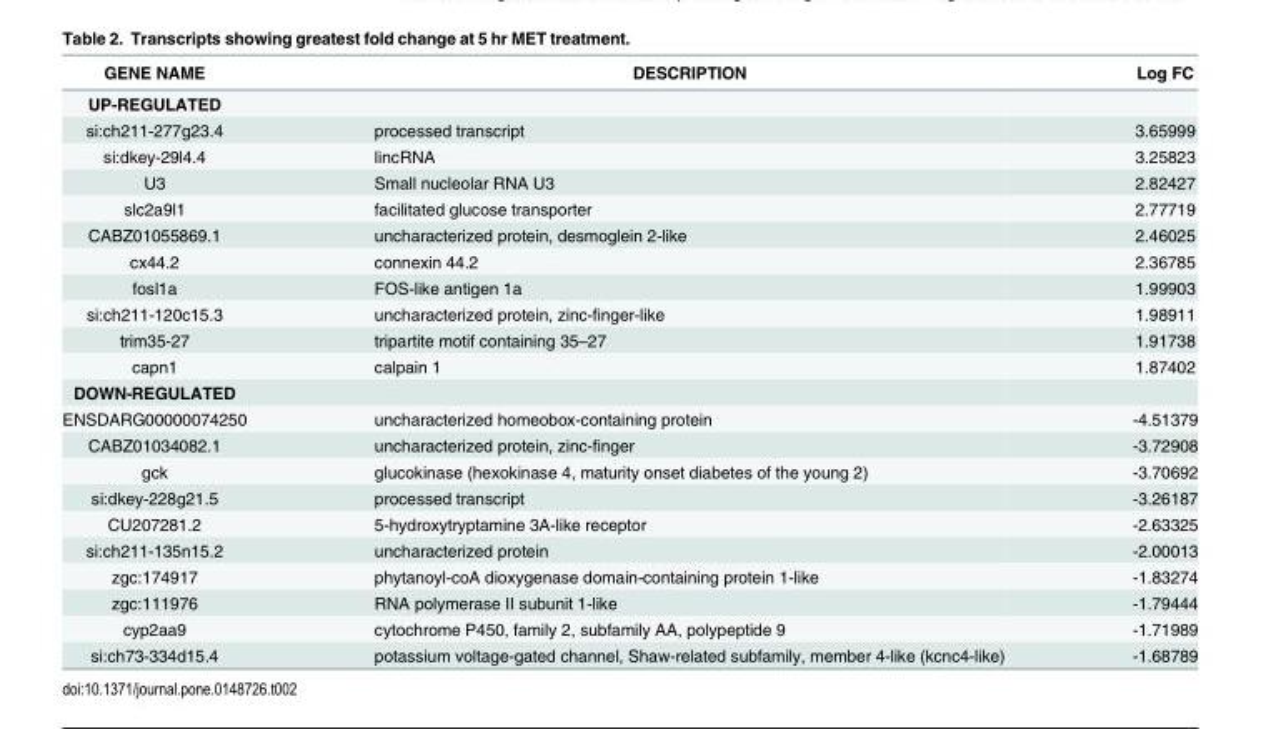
<table><thead><tr><td>GENE NAME</td><td>DESCRIPTION</td><td>Log FC</td></tr></thead><tbody><tr><td colspan="3">UP-REGULATED</td></tr><tr><td>si:ch211-277g23.4</td><td>processed transcript</td><td>3.65999</td></tr><tr><td>si:dkey-29l4.4</td><td>lincRNA</td><td>3.25823</td></tr><tr><td>U3</td><td>Small nucleolar RNA U3</td><td>2.82427</td></tr><tr><td>slc2a9l1</td><td>facilitated glucose transporter</td><td>2.77719</td></tr><tr><td>CABZ01055869.1</td><td>uncharacterized protein, desmoglein 2-like</td><td>2.46025</td></tr><tr><td>cx44.2</td><td>connexin 44.2</td><td>2.36785</td></tr><tr><td>fosl1a</td><td>FOS-like antigen 1a</td><td>1.99903</td></tr><tr><td>si:ch211-120c15.3</td><td>uncharacterized protein, zinc-finger-like</td><td>1.98911</td></tr><tr><td>trim35-27</td><td>tripartite motif containing 35–27</td><td>1.91738</td></tr><tr><td>capn1</td><td>calpain 1</td><td>1.87402</td></tr><tr><td colspan="3">DOWN-REGULATED</td></tr><tr><td>ENSDARG00000074250</td><td>uncharacterized homeobox-containing protein</td><td>-4.51379</td></tr><tr><td>CABZ01034082.1</td><td>uncharacterized protein, zinc-finger</td><td>-3.72908</td></tr><tr><td>gck</td><td>glucokinase (hexokinase 4, maturity onset diabetes of the young 2)</td><td>-3.70692</td></tr><tr><td>si:dkey-228g21.5</td><td>processed transcript</td><td>-3.26187</td></tr><tr><td>CU207281.2</td><td>5-hydroxytryptamine 3A-like receptor</td><td>-2.63325</td></tr><tr><td>si:ch211-135n15.2</td><td>uncharacterized protein</td><td>-2.00013</td></tr><tr><td>zgc:174917</td><td>phytanoyl-coA dioxygenase domain-containing protein 1-like</td><td>-1.83274</td></tr><tr><td>zgc:111976</td><td>RNA polymerase II subunit 1-like</td><td>-1.79444</td></tr><tr><td>cyp2aa9</td><td>cytochrome P450, family 2, subfamily AA, polypeptide 9</td><td>-1.71989</td></tr><tr><td>si:ch73-334d15.4</td><td>potassium voltage-gated channel, Shaw-related subfamily, member 4-like (kcnc4-like)</td><td>-1.68789</td></tr></tbody></table>